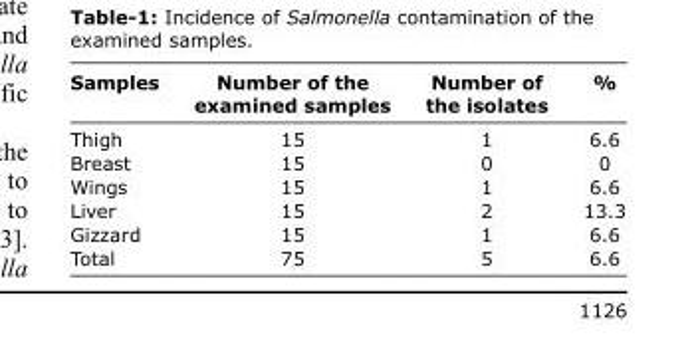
<table><thead><tr><td>Samples</td><td>Number of the examined samples</td><td>Number of the isolates</td><td>%</td></tr></thead><tbody><tr><td>Thigh</td><td>15</td><td>1</td><td>6.6</td></tr><tr><td>Breast</td><td>15</td><td>0</td><td>0</td></tr><tr><td>Wings</td><td>15</td><td>1</td><td>6.6</td></tr><tr><td>Liver</td><td>15</td><td>2</td><td>13.3</td></tr><tr><td>Gizzard</td><td>15</td><td>1</td><td>6.6</td></tr><tr><td>Total</td><td>75</td><td>5</td><td>6.6</td></tr></tbody></table>